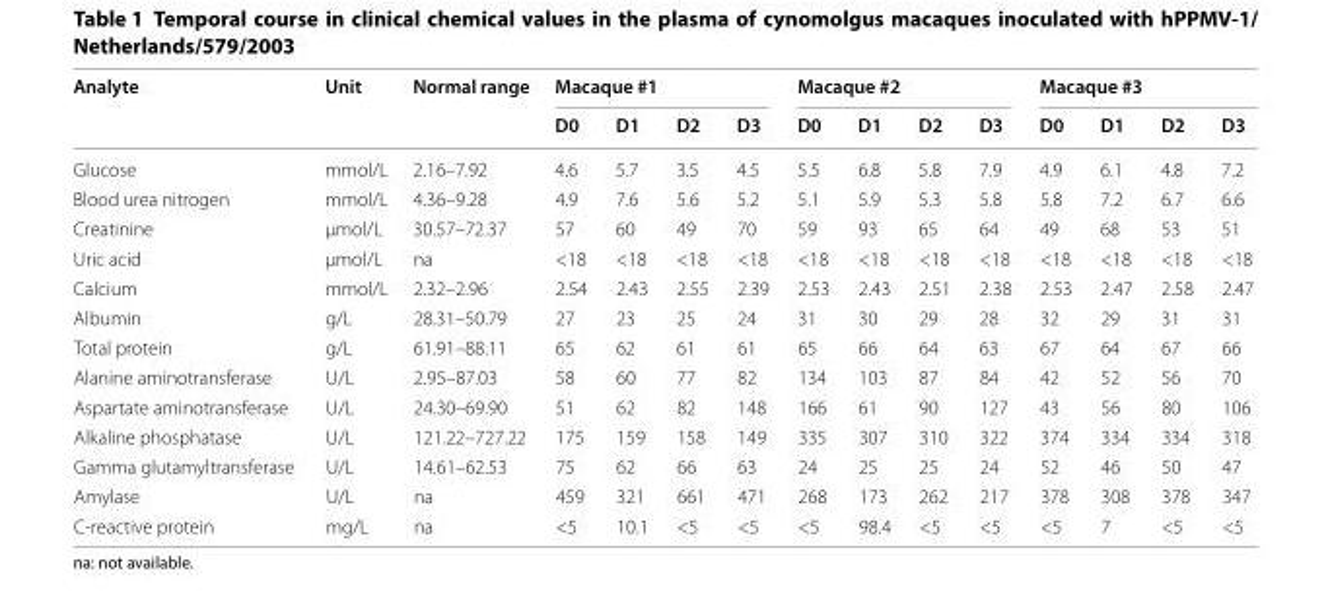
<table><thead><tr><td rowspan="2">Analyte</td><td rowspan="2">Unit</td><td rowspan="2">Normal range</td><td colspan="4">Macaque #1</td><td colspan="4">Macaque #2</td><td colspan="4">Macaque #3</td></tr><tr><td>D0</td><td>D1</td><td>D2</td><td>D3</td><td>D0</td><td>D1</td><td>D2</td><td>D3</td><td>D0</td><td>D1</td><td>D2</td><td>D3</td></tr></thead><tbody><tr><td>Glucose</td><td>mmol/L</td><td>2.16–7.92</td><td>4.6</td><td>5.7</td><td>3.5</td><td>4.5</td><td>5.5</td><td>6.8</td><td>5.8</td><td>7.9</td><td>4.9</td><td>6.1</td><td>4.8</td><td>7.2</td></tr><tr><td>Blood urea nitrogen</td><td>mmol/L</td><td>4.36–9.28</td><td>4.9</td><td>7.6</td><td>5.6</td><td>5.2</td><td>5.1</td><td>5.9</td><td>5.3</td><td>5.8</td><td>5.8</td><td>7.2</td><td>6.7</td><td>6.6</td></tr><tr><td>Creatinine</td><td>µmol/L</td><td>30.57–72.37</td><td>57</td><td>60</td><td>49</td><td>70</td><td>59</td><td>93</td><td>65</td><td>64</td><td>49</td><td>68</td><td>53</td><td>51</td></tr><tr><td>Uric acid</td><td>µmol/L</td><td>na</td><td>&lt;18</td><td>&lt;18</td><td>&lt;18</td><td>&lt;18</td><td>&lt;18</td><td>&lt;18</td><td>&lt;18</td><td>&lt;18</td><td>&lt;18</td><td>&lt;18</td><td>&lt;18</td><td>&lt;18</td></tr><tr><td>Calcium</td><td>mmol/L</td><td>2.32–2.96</td><td>2.54</td><td>2.43</td><td>2.55</td><td>2.39</td><td>2.53</td><td>2.43</td><td>2.51</td><td>2.38</td><td>2.53</td><td>2.47</td><td>2.58</td><td>2.47</td></tr><tr><td>Albumin</td><td>g/L</td><td>28.31–50.79</td><td>27</td><td>23</td><td>25</td><td>24</td><td>31</td><td>30</td><td>29</td><td>28</td><td>32</td><td>29</td><td>31</td><td>31</td></tr><tr><td>Total protein</td><td>g/L</td><td>61.91–88.11</td><td>65</td><td>62</td><td>61</td><td>61</td><td>65</td><td>66</td><td>64</td><td>63</td><td>67</td><td>64</td><td>67</td><td>66</td></tr><tr><td>Alanine aminotransferase</td><td>U/L</td><td>2.95–87.03</td><td>58</td><td>60</td><td>77</td><td>82</td><td>134</td><td>103</td><td>87</td><td>84</td><td>42</td><td>52</td><td>56</td><td>70</td></tr><tr><td>Aspartate aminotransferase</td><td>U/L</td><td>24.30–69.90</td><td>51</td><td>62</td><td>82</td><td>148</td><td>166</td><td>61</td><td>90</td><td>127</td><td>43</td><td>56</td><td>80</td><td>106</td></tr><tr><td>Alkaline phosphatase</td><td>U/L</td><td>121.22–727.22</td><td>175</td><td>159</td><td>158</td><td>149</td><td>335</td><td>307</td><td>310</td><td>322</td><td>374</td><td>334</td><td>334</td><td>318</td></tr><tr><td>Gamma glutamyltransferase</td><td>U/L</td><td>14.61–62.53</td><td>75</td><td>62</td><td>66</td><td>63</td><td>24</td><td>25</td><td>25</td><td>24</td><td>52</td><td>46</td><td>50</td><td>47</td></tr><tr><td>Amylase</td><td>U/L</td><td>na</td><td>459</td><td>321</td><td>661</td><td>471</td><td>268</td><td>173</td><td>262</td><td>217</td><td>378</td><td>308</td><td>378</td><td>347</td></tr><tr><td>C-reactive protein</td><td>mg/L</td><td>na</td><td>&lt;5</td><td>10.1</td><td>&lt;5</td><td>&lt;5</td><td>&lt;5</td><td>98.4</td><td>&lt;5</td><td>&lt;5</td><td>&lt;5</td><td>7</td><td>&lt;5</td><td>&lt;5</td></tr></tbody></table>